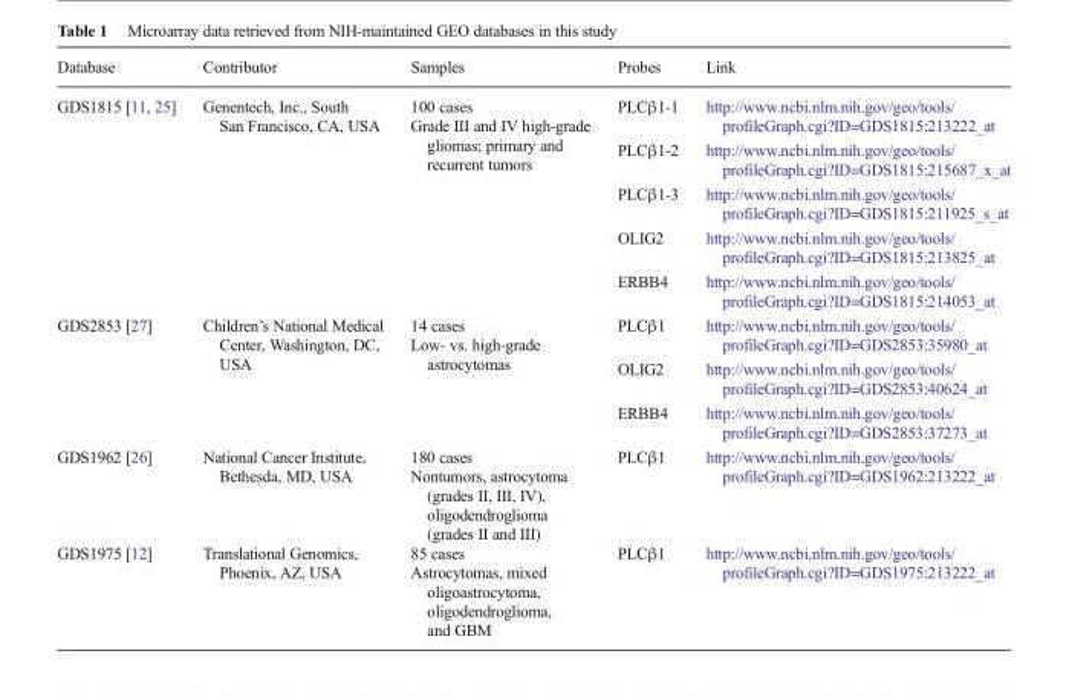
<table><thead><tr><td>Database</td><td>Contributor</td><td>Samples</td><td>Probes</td><td>Link</td></tr></thead><tbody><tr><td rowspan="5">GDS1815 [11, 25]</td><td rowspan="5">Genentech, Inc., South San Francisco, CA, USA</td><td rowspan="5">100 cases Grade III and IV high-grade gliomas; primary and recurrent tumors</td><td>PLCβ1-1</td><td>http://www.ncbi.nlm.nih.gov/geo/tools/ profileGraph.cgi?ID=GDS1815:213222_at</td></tr><tr><td>PLCβ1-2</td><td>http://www.ncbi.nlm.nih.gov/geo/tools/ profileGraph.cgi?ID=GDS1815:215687_x_at</td></tr><tr><td>PLCβ1-3</td><td>http://www.ncbi.nlm.nih.gov/geo/tools/ profileGraph.cgi?ID=GDS1815:211925_s_at</td></tr><tr><td>OLIG2</td><td>http://www.ncbi.nlm.nih.gov/geo/tools/ profileGraph.cgi?ID=GDS1815:213825_at</td></tr><tr><td>ERBB4</td><td>http://www.ncbi.nlm.nih.gov/geo/tools/ profileGraph.cgi?ID=GDS1815:214053_at</td></tr><tr><td rowspan="3">GDS2853 [27]</td><td rowspan="3">Children’s National Medical Center, Washington, DC, USA</td><td rowspan="3">14 cases Low- vs. high-grade astrocytomas</td><td>PLCβ1</td><td>http://www.ncbi.nlm.nih.gov/geo/tools/ profileGraph.cgi?ID=GDS2853:35980_at</td></tr><tr><td>OLIG2</td><td>http://www.ncbi.nlm.nih.gov/geo/tools/ profileGraph.cgi?ID=GDS2853:40624_at</td></tr><tr><td>ERBB4</td><td>http://www.ncbi.nlm.nih.gov/geo/tools/ profileGraph.cgi?ID=GDS2853:37273_at</td></tr><tr><td>GDS1962 [26]</td><td>National Cancer Institute, Bethesda, MD, USA</td><td>180 cases Nontumors, astrocytoma (grades II, III, IV), oligodendroglioma (grades II and III)</td><td>PLCβ1</td><td>http://www.ncbi.nlm.nih.gov/geo/tools/ profileGraph.cgi?ID=GDS1962:213222_at</td></tr><tr><td>GDS1975 [12]</td><td>Translational Genomics, Phoenix, AZ, USA</td><td>85 cases Astrocytomas, mixed oligoastrocytoma, oligodendroglioma, and GBM</td><td>PLCβ1</td><td>http://www.ncbi.nlm.nih.gov/geo/tools/ profileGraph.cgi?ID=GDS1975:213222_at</td></tr></tbody></table>